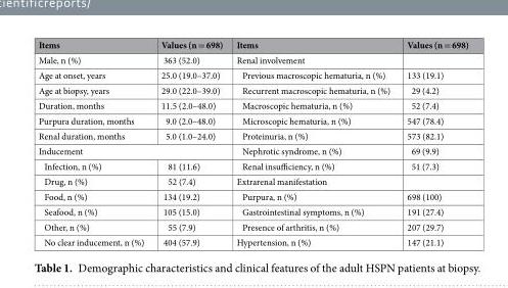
<table><thead><tr><td>Items</td><td>Values (n = 698)</td><td>Items</td><td>Values (n = 698)</td></tr></thead><tbody><tr><td>Male, n (%)</td><td>363 (52.0)</td><td>Renal involvement</td><td></td></tr><tr><td>Age at onset, years</td><td>25.0 (19.0–37.0)</td><td>Previous macroscopic hematuria, n (%)</td><td>133 (19.1)</td></tr><tr><td>Age at biopsy, years</td><td>29.0 (22.0–39.0)</td><td>Recurrent macroscopic hematuria, n (%)</td><td>29 (4.2)</td></tr><tr><td>Duration, months</td><td>11.5 (2.0–48.0)</td><td>Macroscopic hematuria, n (%)</td><td>52 (7.4)</td></tr><tr><td>Purpura duration, months</td><td>9.0 (2.0–48.0)</td><td>Microscopic hematuria, n (%)</td><td>547 (78.4)</td></tr><tr><td>Renal duration, months</td><td>5.0 (1.0–24.0)</td><td>Proteinuria, n (%)</td><td>573 (82.1)</td></tr><tr><td colspan="2">Inducement</td><td>Nephrotic syndrome, n (%)</td><td>69 (9.9)</td></tr><tr><td>Infection, n (%)</td><td>81 (11.6)</td><td>Renal insufficiency, n (%)</td><td>51 (7.3)</td></tr><tr><td>Drug, n (%)</td><td>52 (7.4)</td><td>Extrarenal manifestation</td><td></td></tr><tr><td>Food, n (%)</td><td>134 (19.2)</td><td>Purpura, n (%)</td><td>698 (100)</td></tr><tr><td>Seafood, n (%)</td><td>105 (15.0)</td><td>Gastrointestinal symptoms, n (%)</td><td>191 (27.4)</td></tr><tr><td>Other, n (%)</td><td>55 (7.9)</td><td>Presence of arthritis, n (%)</td><td>207 (29.7)</td></tr><tr><td>No clear inducement, n (%)</td><td>404 (57.9)</td><td>Hypertension, n (%)</td><td>147 (21.1)</td></tr></tbody></table>